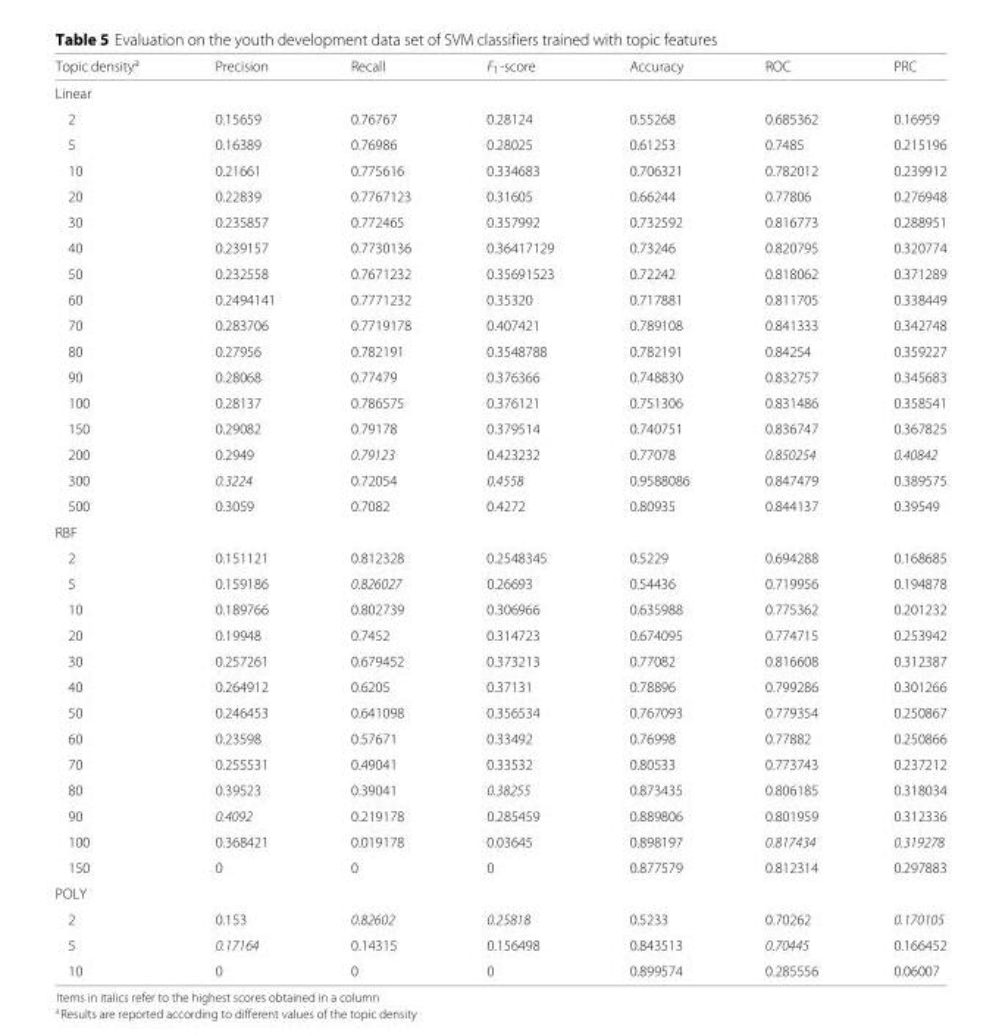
<table><thead><tr><td>Topic density<sup>a</sup></td><td>Precision</td><td>Recall</td><td>F<sub>1</sub>-score</td><td>Accuracy</td><td>ROC</td><td>PRC</td></tr></thead><tbody><tr><td colspan="7">Linear</td></tr><tr><td>2</td><td>0.15659</td><td>0.76767</td><td>0.28124</td><td>0.55268</td><td>0.685362</td><td>0.16959</td></tr><tr><td>5</td><td>0.16389</td><td>0.76986</td><td>0.28025</td><td>0.61253</td><td>0.7485</td><td>0.215196</td></tr><tr><td>10</td><td>0.21661</td><td>0.775616</td><td>0.334683</td><td>0.706321</td><td>0.782012</td><td>0.239912</td></tr><tr><td>20</td><td>0.22839</td><td>0.7767123</td><td>0.31605</td><td>0.66244</td><td>0.77806</td><td>0.276948</td></tr><tr><td>30</td><td>0.235857</td><td>0.772465</td><td>0.357992</td><td>0.732592</td><td>0.816773</td><td>0.288951</td></tr><tr><td>40</td><td>0.239157</td><td>0.7730136</td><td>0.36417129</td><td>0.73246</td><td>0.820795</td><td>0.320774</td></tr><tr><td>50</td><td>0.232558</td><td>0.7671232</td><td>0.35691523</td><td>0.72242</td><td>0.818062</td><td>0.371289</td></tr><tr><td>60</td><td>0.2494141</td><td>0.7771232</td><td>0.35320</td><td>0.717881</td><td>0.811705</td><td>0.338449</td></tr><tr><td>70</td><td>0.283706</td><td>0.7719178</td><td>0.407421</td><td>0.789108</td><td>0.841333</td><td>0.342748</td></tr><tr><td>80</td><td>0.27956</td><td>0.782191</td><td>0.3548788</td><td>0.782191</td><td>0.84254</td><td>0.359227</td></tr><tr><td>90</td><td>0.28068</td><td>0.77479</td><td>0.376366</td><td>0.748830</td><td>0.832757</td><td>0.345683</td></tr><tr><td>100</td><td>0.28137</td><td>0.786575</td><td>0.376121</td><td>0.751306</td><td>0.831486</td><td>0.358541</td></tr><tr><td>150</td><td>0.29082</td><td>0.79178</td><td>0.379514</td><td>0.740751</td><td>0.836747</td><td>0.367825</td></tr><tr><td>200</td><td>0.2949</td><td>0.79123</td><td>0.423232</td><td>0.77078</td><td>0.850254</td><td>0.40842</td></tr><tr><td>300</td><td>0.3224</td><td>0.72054</td><td>0.4558</td><td>0.9588086</td><td>0.847479</td><td>0.389575</td></tr><tr><td>500</td><td>0.3059</td><td>0.7082</td><td>0.4272</td><td>0.80935</td><td>0.844137</td><td>0.39549</td></tr><tr><td colspan="7">RBF</td></tr><tr><td>2</td><td>0.151121</td><td>0.812328</td><td>0.2548345</td><td>0.5229</td><td>0.694288</td><td>0.168685</td></tr><tr><td>5</td><td>0.159186</td><td>0.826027</td><td>0.26693</td><td>0.54436</td><td>0.719956</td><td>0.194878</td></tr><tr><td>10</td><td>0.189766</td><td>0.802739</td><td>0.306966</td><td>0.635988</td><td>0.775362</td><td>0.201232</td></tr><tr><td>20</td><td>0.19948</td><td>0.7452</td><td>0.314723</td><td>0.674095</td><td>0.774715</td><td>0.253942</td></tr><tr><td>30</td><td>0.257261</td><td>0.679452</td><td>0.373213</td><td>0.77082</td><td>0.816608</td><td>0.312387</td></tr><tr><td>40</td><td>0.264912</td><td>0.6205</td><td>0.37131</td><td>0.78896</td><td>0.799286</td><td>0.301266</td></tr><tr><td>50</td><td>0.246453</td><td>0.641098</td><td>0.356534</td><td>0.767093</td><td>0.779354</td><td>0.250867</td></tr><tr><td>60</td><td>0.23598</td><td>0.57671</td><td>0.33492</td><td>0.76998</td><td>0.77882</td><td>0.250866</td></tr><tr><td>70</td><td>0.255531</td><td>0.49041</td><td>0.33532</td><td>0.80533</td><td>0.773743</td><td>0.237212</td></tr><tr><td>80</td><td>0.39523</td><td>0.39041</td><td>0.38255</td><td>0.873435</td><td>0.806185</td><td>0.318034</td></tr><tr><td>90</td><td>0.4092</td><td>0.219178</td><td>0.285459</td><td>0.889806</td><td>0.801959</td><td>0.312336</td></tr><tr><td>100</td><td>0.368421</td><td>0.019178</td><td>0.03645</td><td>0.898197</td><td>0.817434</td><td>0.319278</td></tr><tr><td>150</td><td>0</td><td>0</td><td>0</td><td>0.877579</td><td>0.812314</td><td>0.297883</td></tr><tr><td colspan="7">POLY</td></tr><tr><td>2</td><td>0.153</td><td>0.82602</td><td>0.25818</td><td>0.5233</td><td>0.70262</td><td>0.170105</td></tr><tr><td>5</td><td>0.17164</td><td>0.14315</td><td>0.156498</td><td>0.843513</td><td>0.70445</td><td>0.166452</td></tr><tr><td>10</td><td>0</td><td>0</td><td>0</td><td>0.899574</td><td>0.285556</td><td>0.06007</td></tr></tbody></table>